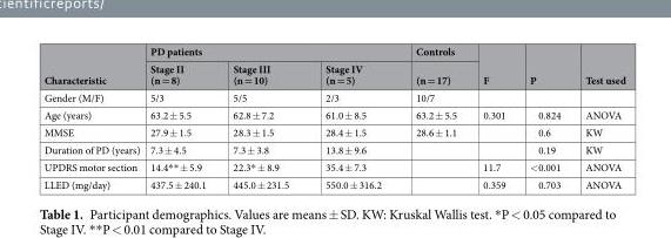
<table><thead><tr><td rowspan="2">Characteristic</td><td colspan="3">PD patients</td><td rowspan="2">Controls (n = 17)</td><td rowspan="2">F</td><td rowspan="2">P</td><td rowspan="2">Test used</td></tr><tr><td>Stage II (n = 8)</td><td>Stage III (n = 10)</td><td>Stage IV (n = 5)</td></tr></thead><tbody><tr><td>Gender (M/F)</td><td>5/3</td><td>5/5</td><td>2/3</td><td>10/7</td><td></td><td></td><td></td></tr><tr><td>Age (years)</td><td>63.2 ± 5.5</td><td>62.8 ± 7.2</td><td>61.0 ± 8.5</td><td>63.2 ± 5.5</td><td>0.301</td><td>0.824</td><td>ANOVA</td></tr><tr><td>MMSE</td><td>27.9 ± 1.5</td><td>28.3 ± 1.5</td><td>28.4 ± 1.5</td><td>28.6 ± 1.1</td><td></td><td>0.6</td><td>KW</td></tr><tr><td>Duration of PD (years)</td><td>7.3 ± 4.5</td><td>7.3 ± 3.8</td><td>13.8 ± 9.6</td><td></td><td></td><td>0.19</td><td>KW</td></tr><tr><td>UPDRS motor section</td><td>14.4** ± 5.9</td><td>22.3* ± 8.9</td><td>35.4 ± 7.3</td><td></td><td>11.7</td><td>&lt;0.001</td><td>ANOVA</td></tr><tr><td>LLED (mg/day)</td><td>437.5 ± 240.1</td><td>445.0 ± 231.5</td><td>550.0 ± 316.2</td><td></td><td>0.359</td><td>0.703</td><td>ANOVA</td></tr></tbody></table>